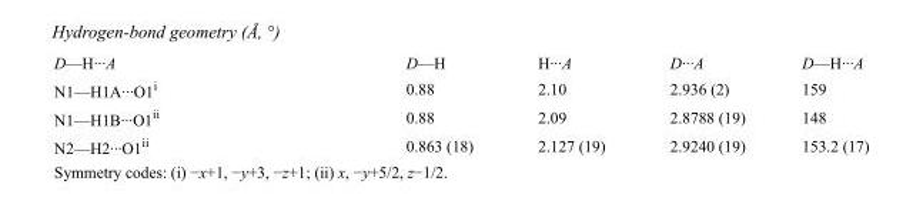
<table><tbody><tr><td>D—H···A</td><td>D—H</td><td>H···A</td><td>D···A</td><td>D—H···A</td></tr><tr><td>N1—H1A···O1<sup>i</sup></td><td>0.88</td><td>2.10</td><td>2.936 (2)</td><td>159</td></tr><tr><td>N1—H1B···O1<sup>ii</sup></td><td>0.88</td><td>2.09</td><td>2.8788 (19)</td><td>148</td></tr><tr><td>N2—H2···O1<sup>ii</sup></td><td>0.863 (18)</td><td>2.127 (19)</td><td>2.9240 (19)</td><td>153.2 (17)</td></tr></tbody></table>